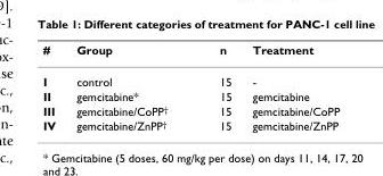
<table><thead><tr><td>#</td><td>Group</td><td>n</td><td>Treatment</td></tr></thead><tbody><tr><td>I</td><td>control</td><td>15</td><td>-</td></tr><tr><td>II</td><td>gemcitabine*</td><td>15</td><td>gemcitabine</td></tr><tr><td>III</td><td>gemcitabine/CoPP<sup>†</sup></td><td>15</td><td>gemcitabine/CoPP</td></tr><tr><td>IV</td><td>gemcitabine/ZnPP<sup>†</sup></td><td>15</td><td>gemcitabine/ZnPP</td></tr></tbody></table>